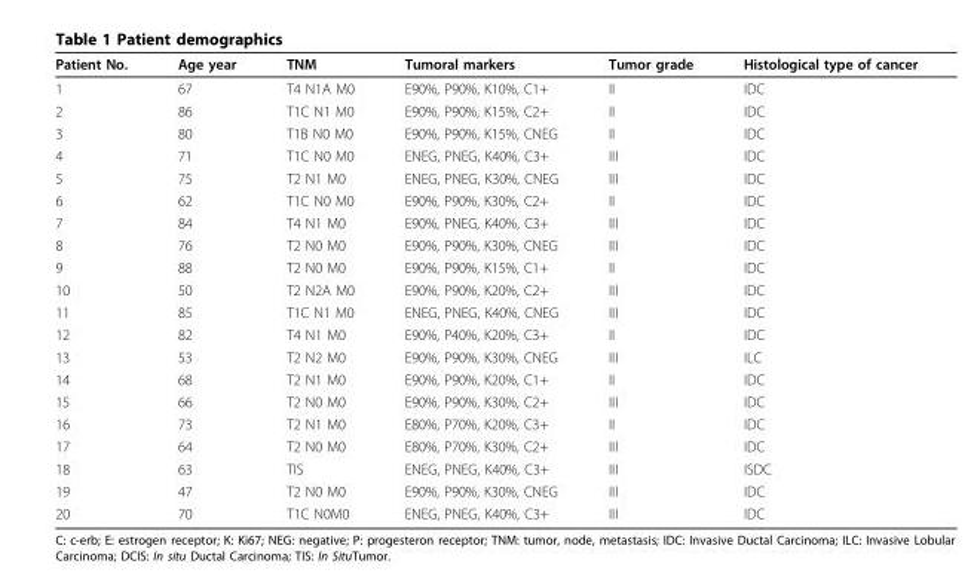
<table><thead><tr><td>Patient No.</td><td>Age year</td><td>TNM</td><td>Tumoral markers</td><td>Tumor grade</td><td>Histological type of cancer</td></tr></thead><tbody><tr><td>1</td><td>67</td><td>T4 N1A M0</td><td>E90%, P90%, K10%, C1+</td><td>II</td><td>IDC</td></tr><tr><td>2</td><td>86</td><td>T1C N1 M0</td><td>E90%, P90%, K15%, C2+</td><td>II</td><td>IDC</td></tr><tr><td>3</td><td>80</td><td>T1B N0 M0</td><td>E90%, P90%, K15%, CNEG</td><td>II</td><td>IDC</td></tr><tr><td>4</td><td>71</td><td>T1C N0 M0</td><td>ENEG, PNEG, K40%, C3+</td><td>III</td><td>IDC</td></tr><tr><td>5</td><td>75</td><td>T2 N1 M0</td><td>ENEG, PNEG, K30%, CNEG</td><td>III</td><td>IDC</td></tr><tr><td>6</td><td>62</td><td>T1C N0 M0</td><td>E90%, P90%, K30%, C2+</td><td>II</td><td>IDC</td></tr><tr><td>7</td><td>84</td><td>T4 N1 M0</td><td>E90%, PNEG, K40%, C3+</td><td>III</td><td>IDC</td></tr><tr><td>8</td><td>76</td><td>T2 N0 M0</td><td>E90%, P90%, K30%, CNEG</td><td>III</td><td>IDC</td></tr><tr><td>9</td><td>88</td><td>T2 N0 M0</td><td>E90%, P90%, K15%, C1+</td><td>II</td><td>IDC</td></tr><tr><td>10</td><td>50</td><td>T2 N2A M0</td><td>E90%, P90%, K20%, C2+</td><td>III</td><td>IDC</td></tr><tr><td>11</td><td>85</td><td>T1C N1 M0</td><td>ENEG, PNEG, K40%, CNEG</td><td>III</td><td>IDC</td></tr><tr><td>12</td><td>82</td><td>T4 N1 M0</td><td>E90%, P40%, K20%, C3+</td><td>II</td><td>IDC</td></tr><tr><td>13</td><td>53</td><td>T2 N2 M0</td><td>E90%, P90%, K30%, CNEG</td><td>III</td><td>ILC</td></tr><tr><td>14</td><td>68</td><td>T2 N1 M0</td><td>E90%, P90%, K20%, C1+</td><td>II</td><td>IDC</td></tr><tr><td>15</td><td>66</td><td>T2 N0 M0</td><td>E90%, P90%, K30%, C2+</td><td>III</td><td>IDC</td></tr><tr><td>16</td><td>73</td><td>T2 N1 M0</td><td>E80%, P70%, K20%, C3+</td><td>II</td><td>IDC</td></tr><tr><td>17</td><td>64</td><td>T2 N0 M0</td><td>E80%, P70%, K30%, C2+</td><td>III</td><td>IDC</td></tr><tr><td>18</td><td>63</td><td>TIS</td><td>ENEG, PNEG, K40%, C3+</td><td>III</td><td>ISDC</td></tr><tr><td>19</td><td>47</td><td>T2 N0 M0</td><td>E90%, P90%, K30%, CNEG</td><td>III</td><td>IDC</td></tr><tr><td>20</td><td>70</td><td>T1C N0M0</td><td>ENEG, PNEG, K40%, C3+</td><td>III</td><td>IDC</td></tr></tbody></table>